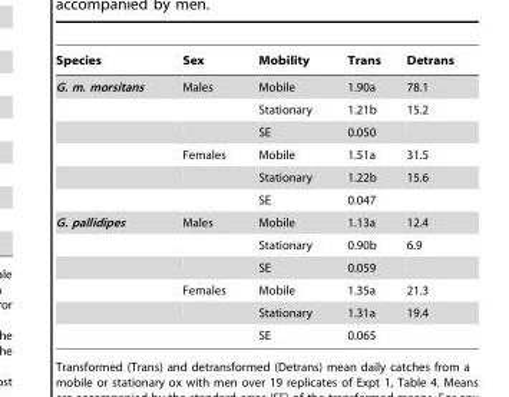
<table><thead><tr><td>Species</td><td>Sex</td><td>Mobility</td><td>Trans</td><td>Detrans</td></tr></thead><tbody><tr><td rowspan="6">G. m. morsitans</td><td>Males</td><td>Mobile</td><td>1.90a</td><td>78.1</td></tr><tr><td></td><td>Stationary</td><td>1.21b</td><td>15.2</td></tr><tr><td></td><td>SE</td><td>0.050</td><td></td></tr><tr><td>Females</td><td>Mobile</td><td>1.51a</td><td>31.5</td></tr><tr><td></td><td>Stationary</td><td>1.22b</td><td>15.6</td></tr><tr><td></td><td>SE</td><td>0.047</td><td></td></tr><tr><td rowspan="6">G. pallidipes</td><td>Males</td><td>Mobile</td><td>1.13a</td><td>12.4</td></tr><tr><td></td><td>Stationary</td><td>0.90b</td><td>6.9</td></tr><tr><td></td><td>SE</td><td>0.059</td><td></td></tr><tr><td>Females</td><td>Mobile</td><td>1.35a</td><td>21.3</td></tr><tr><td></td><td>Stationary</td><td>1.31a</td><td>19.4</td></tr><tr><td></td><td>SE</td><td>0.065</td><td></td></tr></tbody></table>